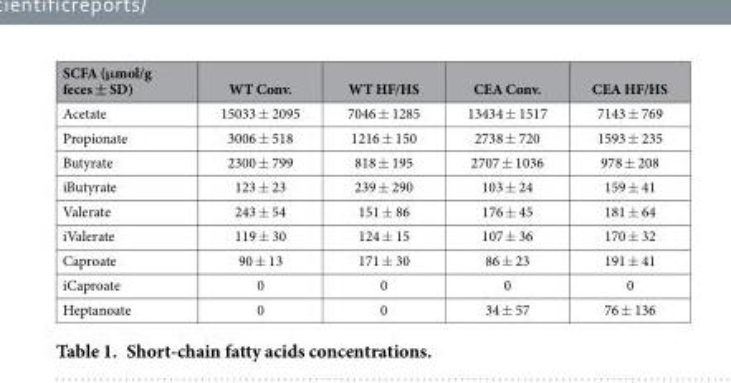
<table><thead><tr><td>SCFA (μmol/g feces ± SD)</td><td>WT Conv.</td><td>WT HF/HS</td><td>CEA Conv.</td><td>CEA HF/HS</td></tr></thead><tbody><tr><td>Acetate</td><td>15033 ± 2095</td><td>7046 ± 1285</td><td>13434 ± 1517</td><td>7143 ± 769</td></tr><tr><td>Propionate</td><td>3006 ± 518</td><td>1216 ± 150</td><td>2738 ± 720</td><td>1593 ± 235</td></tr><tr><td>Butyrate</td><td>2300 ± 799</td><td>818 ± 195</td><td>2707 ± 1036</td><td>978 ± 208</td></tr><tr><td>iButyrate</td><td>123 ± 23</td><td>239 ± 290</td><td>103 ± 24</td><td>159 ± 41</td></tr><tr><td>Valerate</td><td>243 ± 54</td><td>151 ± 86</td><td>176 ± 45</td><td>181 ± 64</td></tr><tr><td>iValerate</td><td>119 ± 30</td><td>124 ± 15</td><td>107 ± 36</td><td>170 ± 32</td></tr><tr><td>Caproate</td><td>90 ± 13</td><td>171 ± 30</td><td>86 ± 23</td><td>191 ± 41</td></tr><tr><td>iCaproate</td><td>0</td><td>0</td><td>0</td><td>0</td></tr><tr><td>Heptanoate</td><td>0</td><td>0</td><td>34 ± 57</td><td>76 ± 136</td></tr></tbody></table>